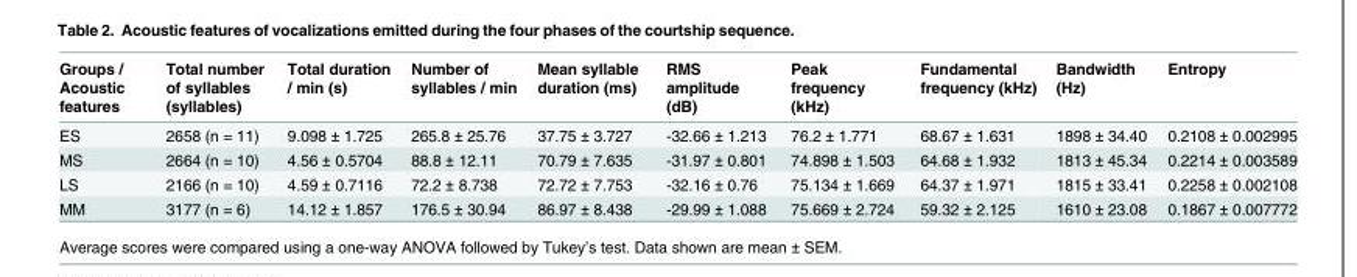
<table><thead><tr><td>Groups / Acoustic features</td><td>Total number of syllables (syllables)</td><td>Total duration / min (s)</td><td>Number of syllables / min</td><td>Mean syllable duration (ms)</td><td>RMS amplitude (dB)</td><td>Peak frequency (kHz)</td><td>Fundamental frequency (kHz)</td><td>Bandwidth (Hz)</td><td>Entropy</td></tr></thead><tbody><tr><td>ES</td><td>2658 (n = 11)</td><td>9.098 ± 1.725</td><td>265.8 ± 25.76</td><td>37.75 ± 3.727</td><td>-32.66 ± 1.213</td><td>76.2 ± 1.771</td><td>68.67 ± 1.631</td><td>1898 ± 34.40</td><td>0.2108 ± 0.002995</td></tr><tr><td>MS</td><td>2664 (n = 10)</td><td>4.56 ± 0.5704</td><td>88.8 ± 12.11</td><td>70.79 ± 7.635</td><td>-31.97 ± 0.801</td><td>74.898 ± 1.503</td><td>64.68 ± 1.932</td><td>1813 ± 45.34</td><td>0.2214 ± 0.003589</td></tr><tr><td>LS</td><td>2166 (n = 10)</td><td>4.59 ± 0.7116</td><td>72.2 ± 8.738</td><td>72.72 ± 7.753</td><td>-32.16 ± 0.76</td><td>75.134 ± 1.669</td><td>64.37 ± 1.971</td><td>1815 ± 33.41</td><td>0.2258 ± 0.002108</td></tr><tr><td>MM</td><td>3177 (n = 6)</td><td>14.12 ± 1.857</td><td>176.5 ± 30.94</td><td>86.97 ± 8.438</td><td>-29.99 ± 1.088</td><td>75.669 ± 2.724</td><td>59.32 ± 2.125</td><td>1610 ± 23.08</td><td>0.1867 ± 0.007772</td></tr></tbody></table>